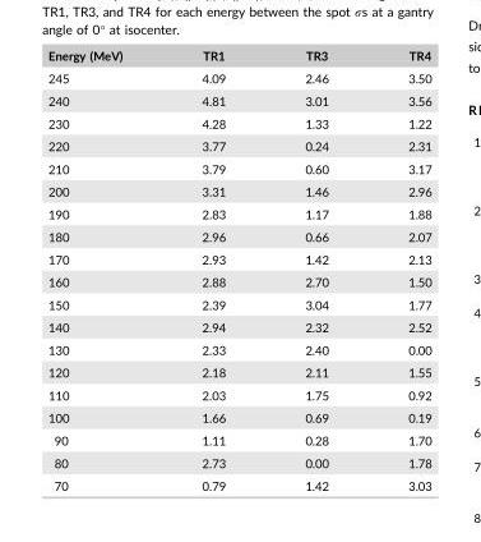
<table><thead><tr><td>Energy (MeV)</td><td>TR1</td><td>TR3</td><td>TR4</td></tr></thead><tbody><tr><td>245</td><td>4.09</td><td>2.46</td><td>3.50</td></tr><tr><td>240</td><td>4.81</td><td>3.01</td><td>3.56</td></tr><tr><td>230</td><td>4.28</td><td>1.33</td><td>1.22</td></tr><tr><td>220</td><td>3.77</td><td>0.24</td><td>2.31</td></tr><tr><td>210</td><td>3.79</td><td>0.60</td><td>3.17</td></tr><tr><td>200</td><td>3.31</td><td>1.46</td><td>2.96</td></tr><tr><td>190</td><td>2.83</td><td>1.17</td><td>1.88</td></tr><tr><td>180</td><td>2.96</td><td>0.66</td><td>2.07</td></tr><tr><td>170</td><td>2.93</td><td>1.42</td><td>2.13</td></tr><tr><td>160</td><td>2.88</td><td>2.70</td><td>1.50</td></tr><tr><td>150</td><td>2.39</td><td>3.04</td><td>1.77</td></tr><tr><td>140</td><td>2.94</td><td>2.32</td><td>2.52</td></tr><tr><td>130</td><td>2.33</td><td>2.40</td><td>0.00</td></tr><tr><td>120</td><td>2.18</td><td>2.11</td><td>1.55</td></tr><tr><td>110</td><td>2.03</td><td>1.75</td><td>0.92</td></tr><tr><td>100</td><td>1.66</td><td>0.69</td><td>0.19</td></tr><tr><td>90</td><td>1.11</td><td>0.28</td><td>1.70</td></tr><tr><td>80</td><td>2.73</td><td>0.00</td><td>1.78</td></tr><tr><td>70</td><td>0.79</td><td>1.42</td><td>3.03</td></tr></tbody></table>